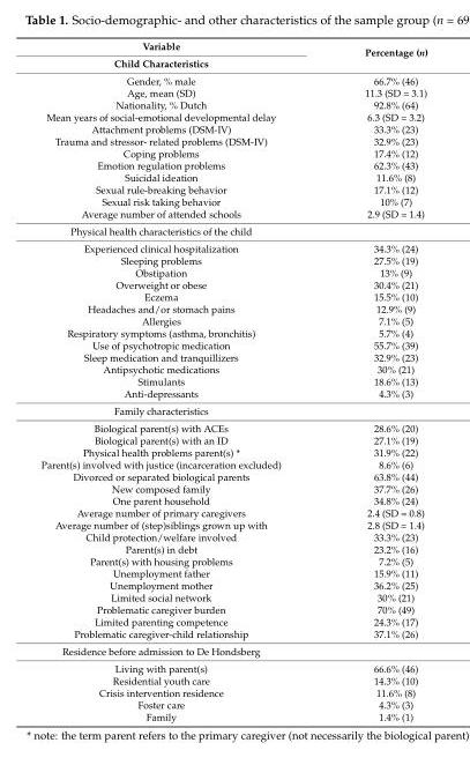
<table><thead><tr><td rowspan="2">Variable Child Characteristics</td><td rowspan="2">Percentage (n)</td></tr><tr></tr></thead><tbody><tr><td>Gender, % male</td><td>66.7% (46)</td></tr><tr><td>Age, mean (SD)</td><td>11.3 (SD = 3.1)</td></tr><tr><td>Nationality, % Dutch</td><td>92.8% (64)</td></tr><tr><td>Mean years of social-emotional developmental delay</td><td>6.3 (SD = 3.2)</td></tr><tr><td>Attachment problems (DSM-IV)</td><td>33.3% (23)</td></tr><tr><td>Trauma and stressor- related problems (DSM-IV)</td><td>32.9% (23)</td></tr><tr><td>Coping problems</td><td>17.4% (12)</td></tr><tr><td>Emotion regulation problems</td><td>62.3% (43)</td></tr><tr><td>Suicidal ideation</td><td>11.6% (8)</td></tr><tr><td>Sexual rule-breaking behavior</td><td>17.1% (12)</td></tr><tr><td>Sexual risk taking behavior</td><td>10% (7)</td></tr><tr><td>Average number of attended schools</td><td>2.9 (SD = 1.4)</td></tr><tr><td colspan="2">Physical health characteristics of the child</td></tr><tr><td>Experienced clinical hospitalization</td><td>34.3% (24)</td></tr><tr><td>Sleeping problems</td><td>27.5% (19)</td></tr><tr><td>Obstipation</td><td>13% (9)</td></tr><tr><td>Overweight or obese</td><td>30.4% (21)</td></tr><tr><td>Eczema</td><td>15.5% (10)</td></tr><tr><td>Headaches and/or stomach pains</td><td>12.9% (9)</td></tr><tr><td>Allergies</td><td>7.1% (5)</td></tr><tr><td>Respiratory symptoms (asthma, bronchitis)</td><td>5.7% (4)</td></tr><tr><td>Use of psychotropic medication</td><td>55.7% (39)</td></tr><tr><td>Sleep medication and tranquillizers</td><td>32.9% (23)</td></tr><tr><td>Antipsychotic medications</td><td>30% (21)</td></tr><tr><td>Stimulants</td><td>18.6% (13)</td></tr><tr><td>Anti-depressants</td><td>4.3% (3)</td></tr><tr><td colspan="2">Family characteristics</td></tr><tr><td>Biological parent(s) with ACEs</td><td>28.6% (20)</td></tr><tr><td>Biological parent(s) with an ID</td><td>27.1% (19)</td></tr><tr><td>Physical health problems parent(s) *</td><td>31.9% (22)</td></tr><tr><td>Parent(s) involved with justice (incarceration excluded)</td><td>8.6% (6)</td></tr><tr><td>Divorced or separated biological parents</td><td>63.8% (44)</td></tr><tr><td>New composed family</td><td>37.7% (26)</td></tr><tr><td>One parent household</td><td>34.8% (24)</td></tr><tr><td>Average number of primary caregivers</td><td>2.4 (SD = 0.8)</td></tr><tr><td>Average number of (step)siblings grown up with</td><td>2.8 (SD = 1.4)</td></tr><tr><td>Child protection/welfare involved</td><td>33.3% (23)</td></tr><tr><td>Parent(s) in debt</td><td>23.2% (16)</td></tr><tr><td>Parent(s) with housing problems</td><td>7.2% (5)</td></tr><tr><td>Unemployment father</td><td>15.9% (11)</td></tr><tr><td>Unemployment mother</td><td>36.2% (25)</td></tr><tr><td>Limited social network</td><td>30% (21)</td></tr><tr><td>Problematic caregiver burden</td><td>70% (49)</td></tr><tr><td>Limited parenting competence</td><td>24.3% (17)</td></tr><tr><td>Problematic caregiver-child relationship</td><td>37.1% (26)</td></tr><tr><td colspan="2">Residence before admission to De Hondsberg</td></tr><tr><td>Living with parent(s)</td><td>66.6% (46)</td></tr><tr><td>Residential youth care</td><td>14.3% (10)</td></tr><tr><td>Crisis intervention residence</td><td>11.6% (8)</td></tr><tr><td>Foster care</td><td>4.3% (3)</td></tr><tr><td>Family</td><td>1.4% (1)</td></tr></tbody></table>